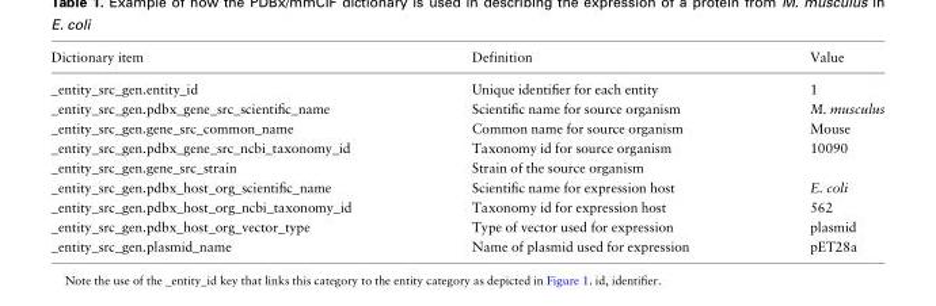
<table><thead><tr><td>Dictionary item</td><td>Definition</td><td>Value</td></tr></thead><tbody><tr><td>_entity_src_gen.entity_id</td><td>Unique identifier for each entity</td><td>1</td></tr><tr><td>_entity_src_gen.pdbx_gene_src_scientific_name</td><td>Scientific name for source organism</td><td>M. musculus</td></tr><tr><td>_entity_src_gen.gene_src_common_name</td><td>Common name for source organism</td><td>Mouse</td></tr><tr><td>_entity_src_gen.pdbx_gene_src_ncbi_taxonomy_id</td><td>Taxonomy id for source organism</td><td>10090</td></tr><tr><td>_entity_src_gen.gene_src_strain</td><td>Strain of the source organism</td><td></td></tr><tr><td>_entity_src_gen.pdbx_host_org_scientific_name</td><td>Scientific name for expression host</td><td>E. coli</td></tr><tr><td>_entity_src_gen.pdbx_host_org_ncbi_taxonomy_id</td><td>Taxonomy id for expression host</td><td>562</td></tr><tr><td>_entity_src_gen.pdbx_host_org_vector_type</td><td>Type of vector used for expression</td><td>plasmid</td></tr><tr><td>_entity_src_gen.plasmid_name</td><td>Name of plasmid used for expression</td><td>pET28a</td></tr></tbody></table>